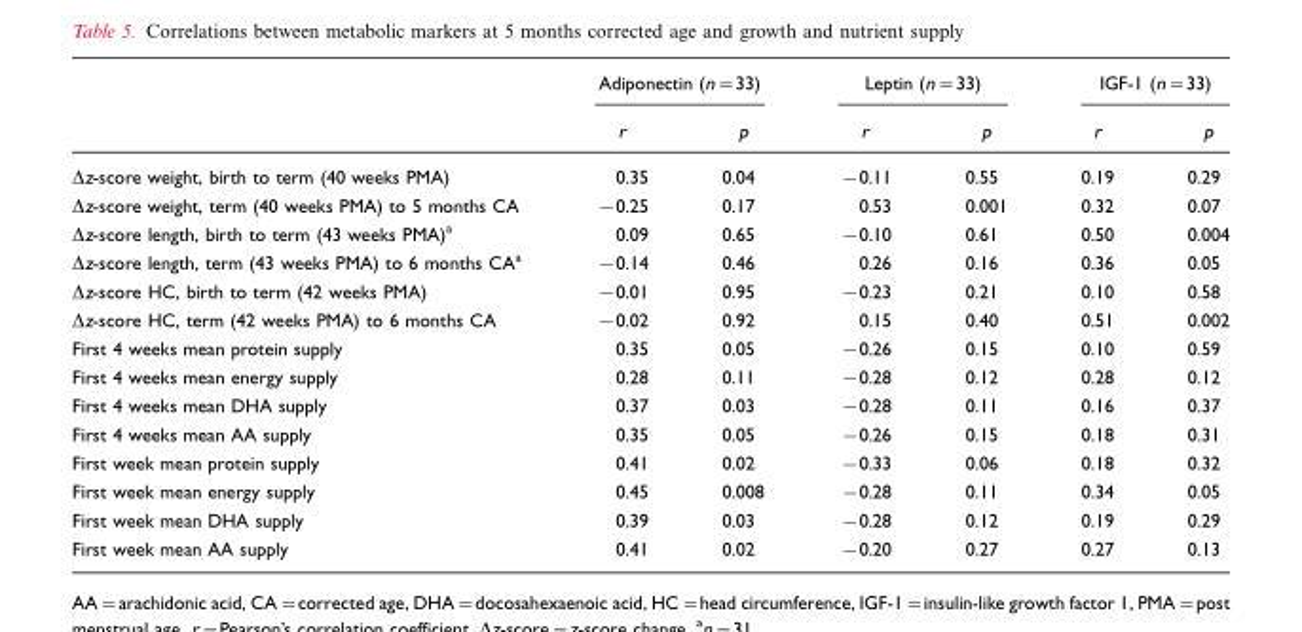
<table><thead><tr><td rowspan="2"></td><td colspan="2">Adiponectin (n=33)</td><td colspan="2">Leptin (n=33)</td><td colspan="2">IGF-1 (n=33)</td></tr><tr><td>r</td><td>p</td><td>r</td><td>p</td><td>r</td><td>p</td></tr></thead><tbody><tr><td>Δz-score weight, birth to term (40 weeks PMA)</td><td>0.35</td><td>0.04</td><td>−0.11</td><td>0.55</td><td>0.19</td><td>0.29</td></tr><tr><td>Δz-score weight, term (40 weeks PMA) to 5 months CA</td><td>−0.25</td><td>0.17</td><td>0.53</td><td>0.001</td><td>0.32</td><td>0.07</td></tr><tr><td>Δz-score length, birth to term (43 weeks PMA)<sup>a</sup></td><td>0.09</td><td>0.65</td><td>−0.10</td><td>0.61</td><td>0.50</td><td>0.004</td></tr><tr><td>Δz-score length, term (43 weeks PMA) to 6 months CA<sup>a</sup></td><td>−0.14</td><td>0.46</td><td>0.26</td><td>0.16</td><td>0.36</td><td>0.05</td></tr><tr><td>Δz-score HC, birth to term (42 weeks PMA)</td><td>−0.01</td><td>0.95</td><td>−0.23</td><td>0.21</td><td>0.10</td><td>0.58</td></tr><tr><td>Δz-score HC, term (42 weeks PMA) to 6 months CA</td><td>−0.02</td><td>0.92</td><td>0.15</td><td>0.40</td><td>0.51</td><td>0.002</td></tr><tr><td>First 4 weeks mean protein supply</td><td>0.35</td><td>0.05</td><td>−0.26</td><td>0.15</td><td>0.10</td><td>0.59</td></tr><tr><td>First 4 weeks mean energy supply</td><td>0.28</td><td>0.11</td><td>−0.28</td><td>0.12</td><td>0.28</td><td>0.12</td></tr><tr><td>First 4 weeks mean DHA supply</td><td>0.37</td><td>0.03</td><td>−0.28</td><td>0.11</td><td>0.16</td><td>0.37</td></tr><tr><td>First 4 weeks mean AA supply</td><td>0.35</td><td>0.05</td><td>−0.26</td><td>0.15</td><td>0.18</td><td>0.31</td></tr><tr><td>First week mean protein supply</td><td>0.41</td><td>0.02</td><td>−0.33</td><td>0.06</td><td>0.18</td><td>0.32</td></tr><tr><td>First week mean energy supply</td><td>0.45</td><td>0.008</td><td>−0.28</td><td>0.11</td><td>0.34</td><td>0.05</td></tr><tr><td>First week mean DHA supply</td><td>0.39</td><td>0.03</td><td>−0.28</td><td>0.12</td><td>0.19</td><td>0.29</td></tr><tr><td>First week mean AA supply</td><td>0.41</td><td>0.02</td><td>−0.20</td><td>0.27</td><td>0.27</td><td>0.13</td></tr></tbody></table>